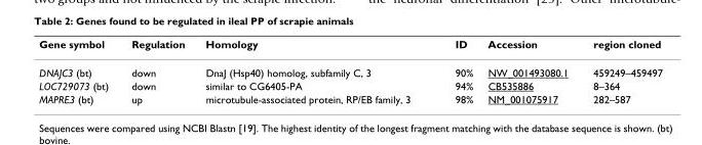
<table><thead><tr><td>Gene symbol</td><td>Regulation</td><td>Homology</td><td>ID</td><td>Accession</td><td>region cloned</td></tr></thead><tbody><tr><td>DNAJC3 (bt)</td><td>down</td><td>DnaJ (Hsp40) homolog, subfamily C, 3</td><td>90%</td><td>NW_001493080.1</td><td>459249–459497</td></tr><tr><td>LOC729073 (bt)</td><td>down</td><td>similar to CG6405-PA</td><td>94%</td><td>CB535886</td><td>8–364</td></tr><tr><td>MAPRE3 (bt)</td><td>up</td><td>microtubule-associated protein, RP/EB family, 3</td><td>98%</td><td>NM_001075917</td><td>282–587</td></tr></tbody></table>